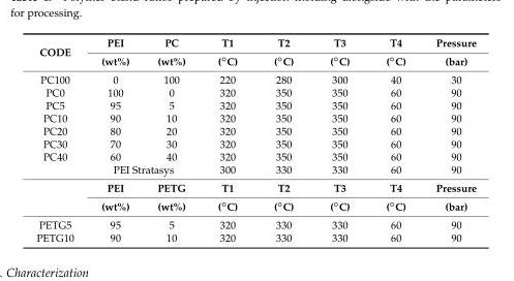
<table><tbody><tr><td rowspan="2">CODE</td><td>PEI</td><td>PC</td><td>T1</td><td>T2</td><td>T3</td><td>T4</td><td>Pressure</td></tr><tr><td>(wt%)</td><td>(wt%)</td><td>(◦C)</td><td>(◦C)</td><td>(◦C)</td><td>(◦C)</td><td>(bar)</td></tr><tr><td>PC100</td><td>0</td><td>100</td><td>220</td><td>280</td><td>300</td><td>40</td><td>30</td></tr><tr><td>PC0</td><td>100</td><td>0</td><td>320</td><td>350</td><td>350</td><td>60</td><td>90</td></tr><tr><td>PC5</td><td>95</td><td>5</td><td>320</td><td>350</td><td>350</td><td>60</td><td>90</td></tr><tr><td>PC10</td><td>90</td><td>10</td><td>320</td><td>350</td><td>350</td><td>60</td><td>90</td></tr><tr><td>PC20</td><td>80</td><td>20</td><td>320</td><td>350</td><td>350</td><td>60</td><td>90</td></tr><tr><td>PC30</td><td>70</td><td>30</td><td>320</td><td>350</td><td>350</td><td>60</td><td>90</td></tr><tr><td rowspan="4">PC40</td><td>60</td><td>40</td><td>320</td><td>350</td><td>350</td><td>60</td><td>90</td></tr><tr><td colspan="2">PEI Stratasys</td><td>300</td><td>330</td><td>330</td><td>60</td><td>90</td></tr><tr><td>PEI</td><td>PETG</td><td>T1</td><td>T2</td><td>T3</td><td>T4</td><td>Pressure</td></tr><tr><td>(wt%)</td><td>(wt%)</td><td>(◦C)</td><td>(◦C)</td><td>(◦C)</td><td>(◦C)</td><td>(bar)</td></tr><tr><td>PETG5</td><td>95</td><td>5</td><td>320</td><td>330</td><td>330</td><td>60</td><td>90</td></tr><tr><td>PETG10</td><td>90</td><td>10</td><td>320</td><td>330</td><td>330</td><td>60</td><td>90</td></tr></tbody></table>